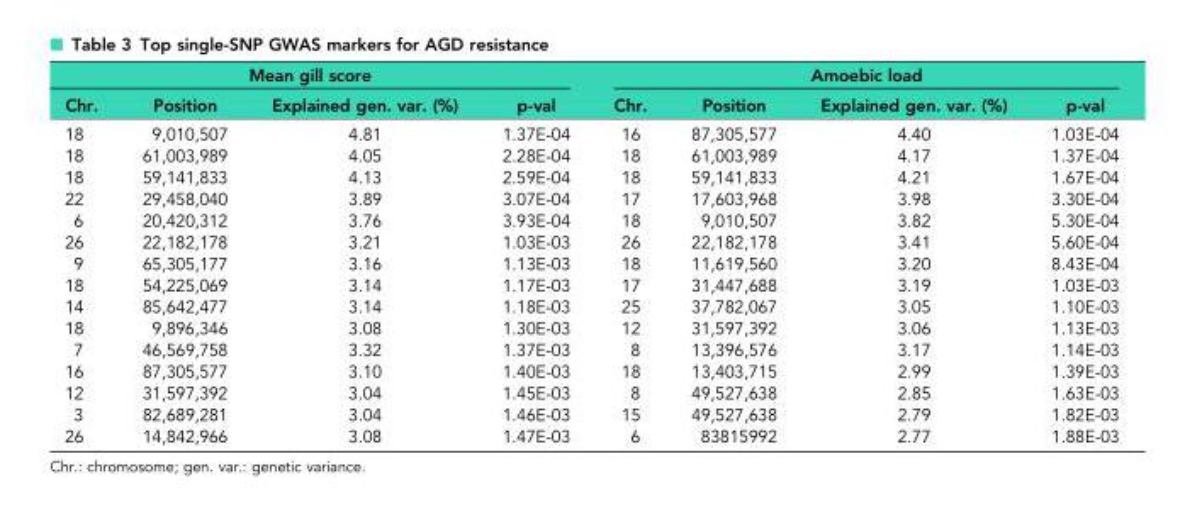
<table><thead><tr><td colspan="4">Mean gill score</td><td colspan="4">Amoebic load</td></tr><tr><td>Chr.</td><td>Position</td><td>Explained gen. var. (%)</td><td>p-val</td><td>Chr.</td><td>Position</td><td>Explained gen. var. (%)</td><td>p-val</td></tr></thead><tbody><tr><td>18</td><td>9,010,507</td><td>4.81</td><td>1.37E-04</td><td>16</td><td>87,305,577</td><td>4.40</td><td>1.03E-04</td></tr><tr><td>18</td><td>61,003,989</td><td>4.05</td><td>2.28E-04</td><td>18</td><td>61,003,989</td><td>4.17</td><td>1.37E-04</td></tr><tr><td>18</td><td>59,141,833</td><td>4.13</td><td>2.59E-04</td><td>18</td><td>59,141,833</td><td>4.21</td><td>1.67E-04</td></tr><tr><td>22</td><td>29,458,040</td><td>3.89</td><td>3.07E-04</td><td>17</td><td>17,603,968</td><td>3.98</td><td>3.30E-04</td></tr><tr><td>6</td><td>20,420,312</td><td>3.76</td><td>3.93E-04</td><td>18</td><td>9,010,507</td><td>3.82</td><td>5.30E-04</td></tr><tr><td>26</td><td>22,182,178</td><td>3.21</td><td>1.03E-03</td><td>26</td><td>22,182,178</td><td>3.41</td><td>5.60E-04</td></tr><tr><td>9</td><td>65,305,177</td><td>3.16</td><td>1.13E-03</td><td>18</td><td>11,619,560</td><td>3.20</td><td>8.43E-04</td></tr><tr><td>18</td><td>54,225,069</td><td>3.14</td><td>1.17E-03</td><td>17</td><td>31,447,688</td><td>3.19</td><td>1.03E-03</td></tr><tr><td>14</td><td>85,642,477</td><td>3.14</td><td>1.18E-03</td><td>25</td><td>37,782,067</td><td>3.05</td><td>1.10E-03</td></tr><tr><td>18</td><td>9,896,346</td><td>3.08</td><td>1.30E-03</td><td>12</td><td>31,597,392</td><td>3.06</td><td>1.13E-03</td></tr><tr><td>7</td><td>46,569,758</td><td>3.32</td><td>1.37E-03</td><td>8</td><td>13,396,576</td><td>3.17</td><td>1.14E-03</td></tr><tr><td>16</td><td>87,305,577</td><td>3.10</td><td>1.40E-03</td><td>18</td><td>13,403,715</td><td>2.99</td><td>1.39E-03</td></tr><tr><td>12</td><td>31,597,392</td><td>3.04</td><td>1.45E-03</td><td>8</td><td>49,527,638</td><td>2.85</td><td>1.63E-03</td></tr><tr><td>3</td><td>82,689,281</td><td>3.04</td><td>1.46E-03</td><td>15</td><td>49,527,638</td><td>2.79</td><td>1.82E-03</td></tr><tr><td>26</td><td>14,842,966</td><td>3.08</td><td>1.47E-03</td><td>6</td><td>83815992</td><td>2.77</td><td>1.88E-03</td></tr></tbody></table>